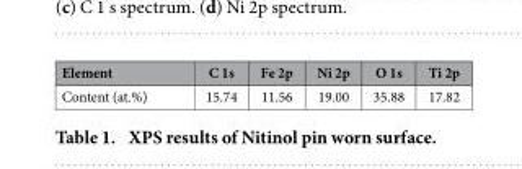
<table><thead><tr><td>Element</td><td>C 1s</td><td>Fe 2p</td><td>Ni 2p</td><td>O 1s</td><td>Ti 2p</td></tr></thead><tbody><tr><td>Content (at.%)</td><td>15.74</td><td>11.56</td><td>19.00</td><td>35.88</td><td>17.82</td></tr></tbody></table>